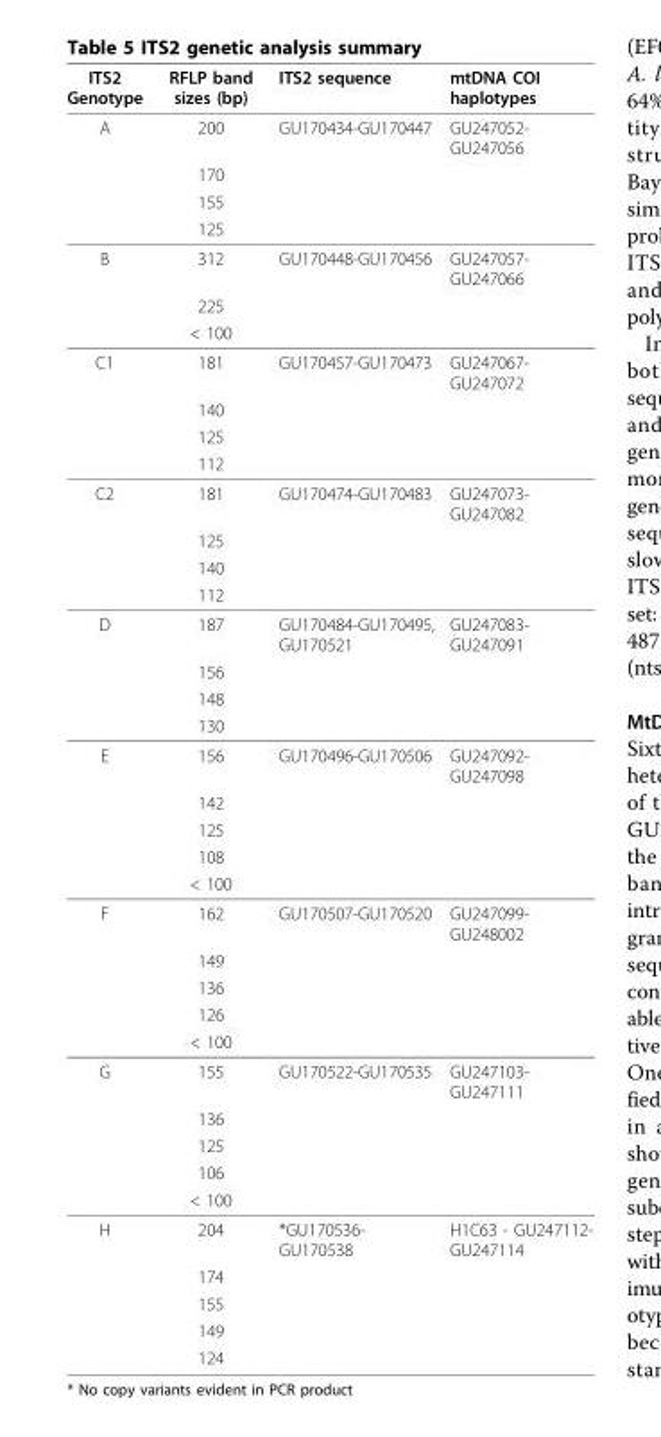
<table><thead><tr><td>ITS2 Genotype</td><td>RFLP band sizes (bp)</td><td>ITS2 sequence</td><td>mtDNA COI haplotypes</td></tr></thead><tbody><tr><td rowspan="4">A</td><td>200</td><td>GU170434-GU170447</td><td>GU247052- GU247056</td></tr><tr><td>170</td><td></td><td></td></tr><tr><td>155</td><td></td><td></td></tr><tr><td>125</td><td></td><td></td></tr><tr><td rowspan="3">B</td><td>312</td><td>GU170448-GU170456</td><td>GU247057- GU247066</td></tr><tr><td>225</td><td></td><td></td></tr><tr><td>&lt; 100</td><td></td><td></td></tr><tr><td rowspan="4">C1</td><td>181</td><td>GU170457-GU170473</td><td>GU247067- GU247072</td></tr><tr><td>140</td><td></td><td></td></tr><tr><td>125</td><td></td><td></td></tr><tr><td>112</td><td></td><td></td></tr><tr><td rowspan="4">C2</td><td>181</td><td>GU170474-GU170483</td><td>GU247073- GU247082</td></tr><tr><td>125</td><td></td><td></td></tr><tr><td>140</td><td></td><td></td></tr><tr><td>112</td><td></td><td></td></tr><tr><td rowspan="4">D</td><td>187</td><td>GU170484-GU170495, GU170521</td><td>GU247083- GU247091</td></tr><tr><td>156</td><td></td><td></td></tr><tr><td>148</td><td></td><td></td></tr><tr><td>130</td><td></td><td></td></tr><tr><td rowspan="5">E</td><td>156</td><td>GU170496-GU170506</td><td>GU247092- GU247098</td></tr><tr><td>142</td><td></td><td></td></tr><tr><td>125</td><td></td><td></td></tr><tr><td>108</td><td></td><td></td></tr><tr><td>&lt; 100</td><td></td><td></td></tr><tr><td rowspan="5">F</td><td>162</td><td>GU170507-GU170520</td><td>GU247099- GU248002</td></tr><tr><td>149</td><td></td><td></td></tr><tr><td>136</td><td></td><td></td></tr><tr><td>126</td><td></td><td></td></tr><tr><td>&lt; 100</td><td></td><td></td></tr><tr><td rowspan="5">G</td><td>155</td><td>GU170522-GU170535</td><td>GU247103- GU247111</td></tr><tr><td>136</td><td></td><td></td></tr><tr><td>125</td><td></td><td></td></tr><tr><td>106</td><td></td><td></td></tr><tr><td>&lt; 100</td><td></td><td></td></tr><tr><td rowspan="5">H</td><td>204</td><td>*GU170536- GU170538</td><td>H1C63 - GU247112- GU247114</td></tr><tr><td>174</td><td></td><td></td></tr><tr><td>155</td><td></td><td></td></tr><tr><td>149</td><td></td><td></td></tr><tr><td>124</td><td></td><td></td></tr></tbody></table>